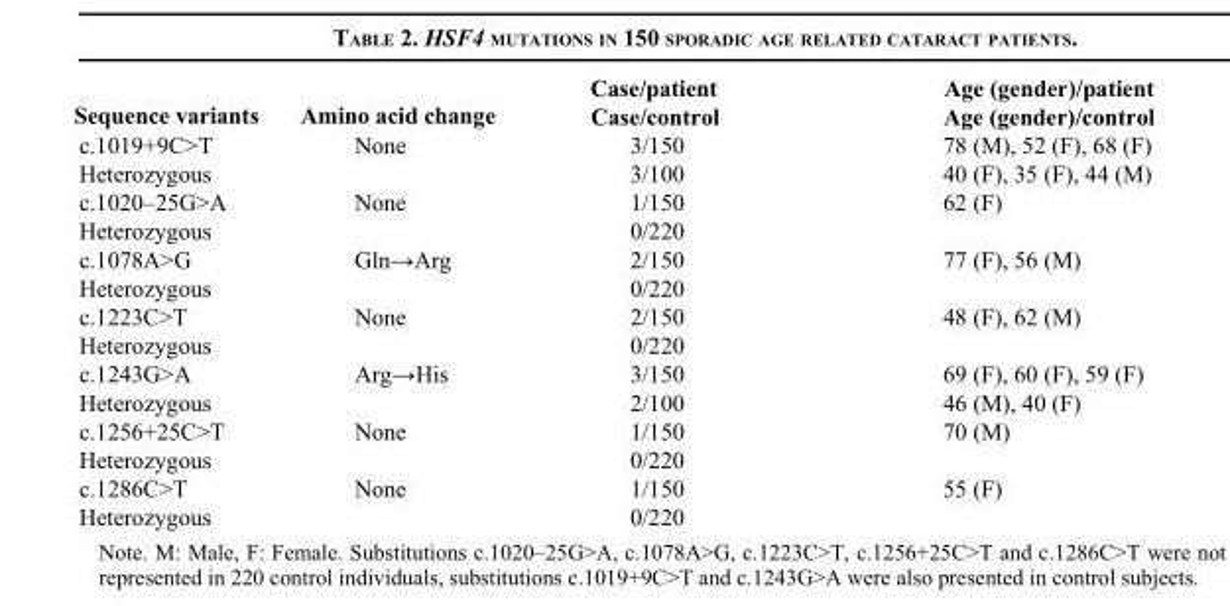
<table><thead><tr><td rowspan="2">Sequence variants</td><td rowspan="2">Amino acid change</td><td rowspan="2">Case/patient Case/control</td><td rowspan="2">Age (gender)/patient Age (gender)/control</td></tr><tr></tr></thead><tbody><tr><td>c.1019+9C&gt;T</td><td>None</td><td>3/150</td><td>78 (M), 52 (F), 68 (F)</td></tr><tr><td>Heterozygous</td><td></td><td>3/100</td><td>40 (F), 35 (F), 44 (M)</td></tr><tr><td>c.1020–25G&gt;A</td><td>None</td><td>1/150</td><td>62 (F)</td></tr><tr><td>Heterozygous</td><td></td><td>0/220</td><td></td></tr><tr><td>c.1078A&gt;G</td><td>Gln→Arg</td><td>2/150</td><td>77 (F), 56 (M)</td></tr><tr><td>Heterozygous</td><td></td><td>0/220</td><td></td></tr><tr><td>c.1223C&gt;T</td><td>None</td><td>2/150</td><td>48 (F), 62 (M)</td></tr><tr><td>Heterozygous</td><td></td><td>0/220</td><td></td></tr><tr><td>c.1243G&gt;A</td><td>Arg→His</td><td>3/150</td><td>69 (F), 60 (F), 59 (F)</td></tr><tr><td>Heterozygous</td><td></td><td>2/100</td><td>46 (M), 40 (F)</td></tr><tr><td>c.1256+25C&gt;T</td><td>None</td><td>1/150</td><td>70 (M)</td></tr><tr><td>Heterozygous</td><td></td><td>0/220</td><td></td></tr><tr><td>c.1286C&gt;T</td><td>None</td><td>1/150</td><td>55 (F)</td></tr><tr><td>Heterozygous</td><td></td><td>0/220</td><td></td></tr></tbody></table>